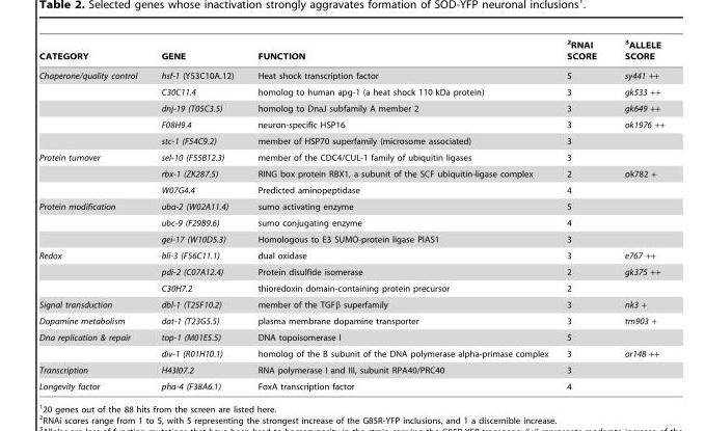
<table><thead><tr><td>CATEGORY</td><td>GENE</td><td>FUNCTION</td><td>2RNAI SCORE</td><td>3ALLELE SCORE</td></tr></thead><tbody><tr><td rowspan="5">Chaperone/quality control</td><td>hsf-1 (Y53C10A.12)</td><td>Heat shock transcription factor</td><td>5</td><td>sy441 ++</td></tr><tr><td>C30C11.4</td><td>homolog to human apg-1 (a heat shock 110 kDa protein)</td><td>3</td><td>gk533 ++</td></tr><tr><td>dnj-19 (T05C3.5)</td><td>homolog to DnaJ subfamily A member 2</td><td>3</td><td>gk649 ++</td></tr><tr><td>F08H9.4</td><td>neuron-specific HSP16</td><td>3</td><td>ok1976 ++</td></tr><tr><td>stc-1 (F54C9.2)</td><td>member of HSP70 superfamily (microsome associated)</td><td>3</td><td></td></tr><tr><td rowspan="3">Protein turnover</td><td>sel-10 (F55B12.3)</td><td>member of the CDC4/CUL-1 family of ubiquitin ligases</td><td>3</td><td></td></tr><tr><td>rbx-1 (ZK287.5)</td><td>RING box protein RBX1, a subunit of the SCF ubiquitin-ligase complex</td><td>2</td><td>ok782 +</td></tr><tr><td>W07G4.4</td><td>Predicted aminopeptidase</td><td>4</td><td></td></tr><tr><td rowspan="3">Protein modification</td><td>uba-2 (W02A11.4)</td><td>sumo activating enzyme</td><td>5</td><td></td></tr><tr><td>ubc-9 (F29B9.6)</td><td>sumo conjugating enzyme</td><td>4</td><td></td></tr><tr><td>gei-17 (W10D5.3)</td><td>Homologous to E3 SUMO-protein ligase PIAS1</td><td>3</td><td></td></tr><tr><td rowspan="3">Redox</td><td>bli-3 (F56C11.1)</td><td>dual oxidase</td><td>3</td><td>e767 ++</td></tr><tr><td>pdi-2 (C07A12.4)</td><td>Protein disulfide isomerase</td><td>2</td><td>gk375 ++</td></tr><tr><td>C30H7.2</td><td>thioredoxin domain-containing protein precursor</td><td>2</td><td></td></tr><tr><td>Signal transduction</td><td>dbl-1 (T25F10.2)</td><td>member of the TGFβ superfamily</td><td>3</td><td>nk3 +</td></tr><tr><td>Dopamine metabolism</td><td>dat-1 (T23G5.5)</td><td>plasma membrane dopamine transporter</td><td>3</td><td>tm903 +</td></tr><tr><td rowspan="2">Dna replication &amp; repair</td><td>top-1 (M01E5.5)</td><td>DNA topoisomerase I</td><td>5</td><td></td></tr><tr><td>div-1 (R01H10.1)</td><td>homolog of the B subunit of the DNA polymerase alpha-primase complex</td><td>3</td><td>or148 ++</td></tr><tr><td>Transcription</td><td>H43I07.2</td><td>RNA polymerase I and III, subunit RPA40/PRC40</td><td>3</td><td></td></tr><tr><td>Longevity factor</td><td>pha-4 (F38A6.1)</td><td>FoxA transcription factor</td><td>4</td><td></td></tr></tbody></table>